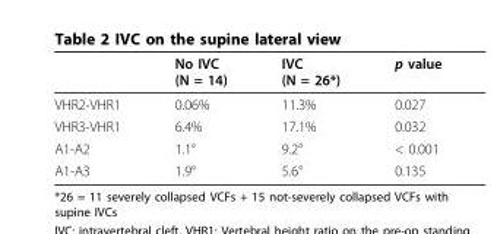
<table><thead><tr><td></td><td>No IVC (N = 14)</td><td>IVC (N = 26*)</td><td>p value</td></tr></thead><tbody><tr><td>VHR2-VHR1</td><td>0.06%</td><td>11.3%</td><td>0.027</td></tr><tr><td>VHR3-VHR1</td><td>6.4%</td><td>17.1%</td><td>0.032</td></tr><tr><td>A1-A2</td><td>1.1°</td><td>9.2°</td><td>&lt; 0.001</td></tr><tr><td>A1-A3</td><td>1.9°</td><td>5.6°</td><td>0.135</td></tr></tbody></table>